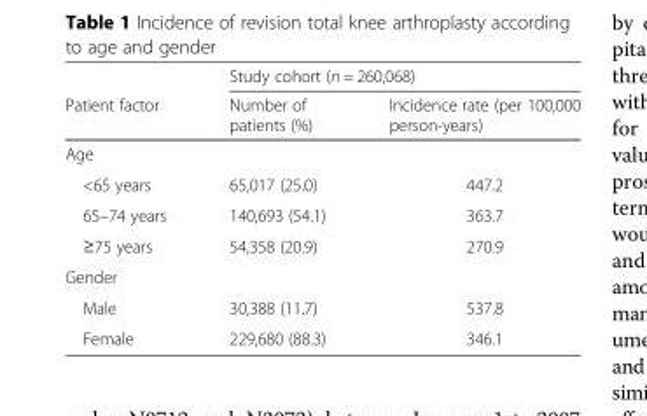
<table><thead><tr><td rowspan="2">Patient factor</td><td colspan="2">Study cohort (n = 260,068)</td></tr><tr><td>Number of patients (%)</td><td>Incidence rate (per 100,000 person-years)</td></tr></thead><tbody><tr><td colspan="3">Age</td></tr><tr><td>&lt;65 years</td><td>65,017 (25.0)</td><td>447.2</td></tr><tr><td>65–74 years</td><td>140,693 (54.1)</td><td>363.7</td></tr><tr><td>≥75 years</td><td>54,358 (20.9)</td><td>270.9</td></tr><tr><td colspan="3">Gender</td></tr><tr><td>Male</td><td>30,388 (11.7)</td><td>537.8</td></tr><tr><td>Female</td><td>229,680 (88.3)</td><td>346.1</td></tr></tbody></table>